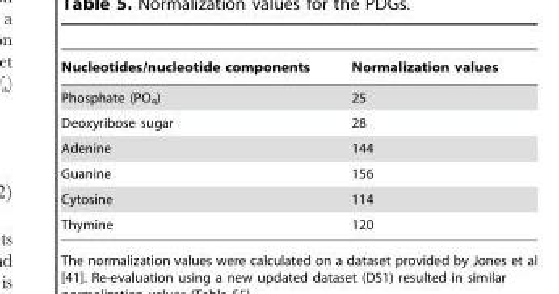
<table><thead><tr><td>Nucleotides/nucleotide components</td><td>Normalization values</td></tr></thead><tbody><tr><td>Phosphate (PO<sub>4</sub>)</td><td>25</td></tr><tr><td>Deoxyribose sugar</td><td>28</td></tr><tr><td>Adenine</td><td>144</td></tr><tr><td>Guanine</td><td>156</td></tr><tr><td>Cytosine</td><td>114</td></tr><tr><td>Thymine</td><td>120</td></tr></tbody></table>